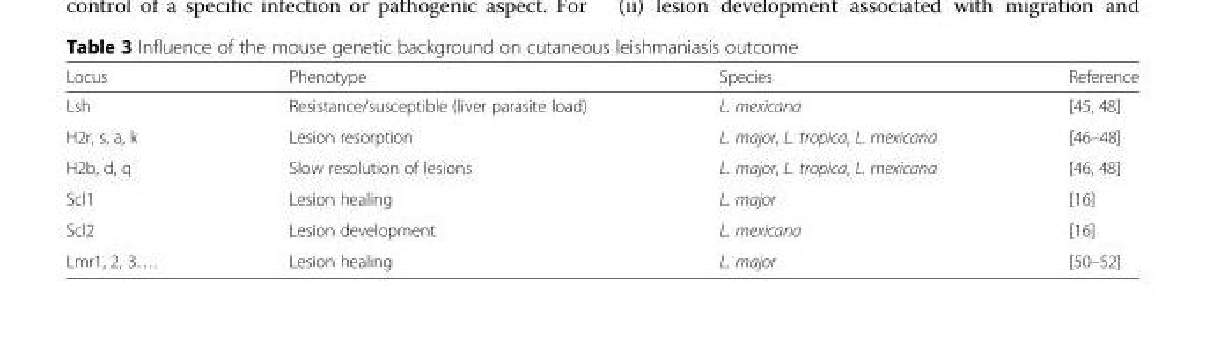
<table><thead><tr><td>Locus</td><td>Phenotype</td><td>Species</td><td>Reference</td></tr></thead><tbody><tr><td>Lsh</td><td>Resistance/susceptible (liver parasite load)</td><td>L. mexicana</td><td>[45, 48]</td></tr><tr><td>H2r, s, a, k</td><td>Lesion resorption</td><td>L. major, L. tropica, L. mexicana</td><td>[46–48]</td></tr><tr><td>H2b, d, q</td><td>Slow resolution of lesions</td><td>L. major, L. tropica, L. mexicana</td><td>[46, 48]</td></tr><tr><td>Scl1</td><td>Lesion healing</td><td>L. major</td><td>[16]</td></tr><tr><td>Scl2</td><td>Lesion development</td><td>L. mexicana</td><td>[16]</td></tr><tr><td>Lmr1, 2, 3….</td><td>Lesion healing</td><td>L. major</td><td>[50–52]</td></tr></tbody></table>